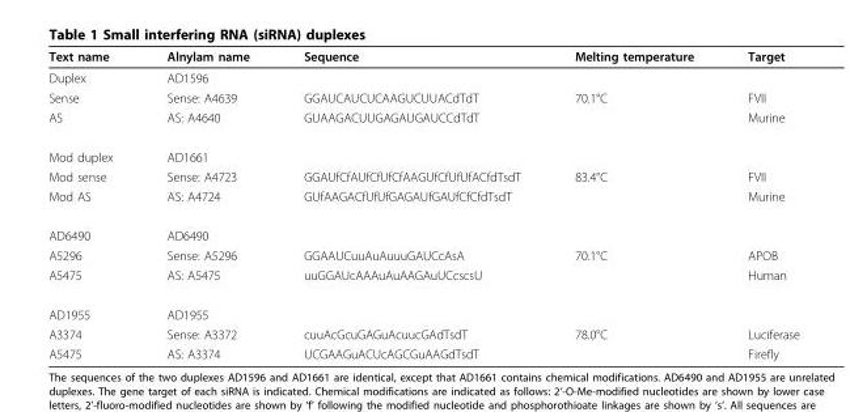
<table><thead><tr><td>Text name</td><td>Alnylam name</td><td>Sequence</td><td>Melting temperature</td><td>Target</td></tr></thead><tbody><tr><td>Duplex</td><td>AD1596</td><td></td><td></td><td></td></tr><tr><td>Sense</td><td>Sense: A4639</td><td>GGAUCAUCUCAAGUCUUACdTdT</td><td>70.1°C</td><td>FVII</td></tr><tr><td>AS</td><td>AS: A4640</td><td>GUAAGACUUGAGAUGAUCCdTdT</td><td></td><td>Murine</td></tr><tr><td>Mod duplex</td><td>AD1661</td><td></td><td></td><td></td></tr><tr><td>Mod sense</td><td>Sense: A4723</td><td>GGAUfCfAUfCfUfCfAAGUfCfUfUfACfdTsdT</td><td>83.4°C</td><td>FVII</td></tr><tr><td>Mod AS</td><td>AS: A4724</td><td>GUfAAGACfUfUfGAGAUfGAUfCfCfdTsdT</td><td></td><td>Murine</td></tr><tr><td>AD6490</td><td>AD6490</td><td></td><td></td><td></td></tr><tr><td>A5296</td><td>Sense: A5296</td><td>GGAAUCuuAuAuuuGAUCcAsA</td><td>70.1°C</td><td>APOB</td></tr><tr><td>A5475</td><td>AS: A5475</td><td>uuGGAUcAAAuAuAAGAuUCcscsU</td><td></td><td>Human</td></tr><tr><td>AD1955</td><td>AD1955</td><td></td><td></td><td></td></tr><tr><td>A3374</td><td>Sense: A3372</td><td>cuuAcGcuGAGuAcuucGAdTsdT</td><td>78.0°C</td><td>Luciferase</td></tr><tr><td>A5475</td><td>AS: A3374</td><td>UCGAAGuACUcAGCGuAAGdTsdT</td><td></td><td>Firefly</td></tr></tbody></table>